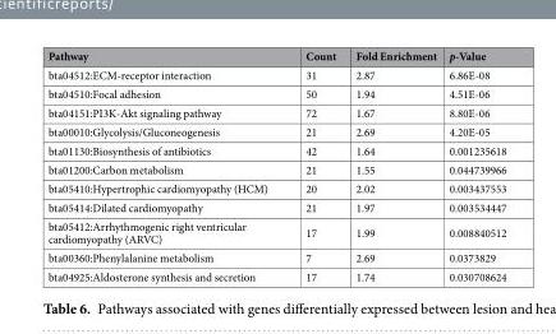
<table><thead><tr><td>Pathway</td><td>Count</td><td>Fold Enrichment</td><td>p-Value</td></tr></thead><tbody><tr><td>bta04512:ECM-receptor interaction</td><td>31</td><td>2.87</td><td>6.86E-08</td></tr><tr><td>bta04510:Focal adhesion</td><td>50</td><td>1.94</td><td>4.51E-06</td></tr><tr><td>bta04151:PI3K-Akt signaling pathway</td><td>72</td><td>1.67</td><td>8.80E-06</td></tr><tr><td>bta00010:Glycolysis/Gluconeogenesis</td><td>21</td><td>2.69</td><td>4.20E-05</td></tr><tr><td>bta01130:Biosynthesis of antibiotics</td><td>42</td><td>1.64</td><td>0.001235618</td></tr><tr><td>bta01200:Carbon metabolism</td><td>21</td><td>1.55</td><td>0.044739966</td></tr><tr><td>bta05410:Hypertrophic cardiomyopathy (HCM)</td><td>20</td><td>2.02</td><td>0.003437553</td></tr><tr><td>bta05414:Dilated cardiomyopathy</td><td>21</td><td>1.97</td><td>0.003534447</td></tr><tr><td>bta05412:Arrhythmogenic right ventricular cardiomyopathy (ARVC)</td><td>17</td><td>1.99</td><td>0.008840512</td></tr><tr><td>bta00360:Phenylalanine metabolism</td><td>7</td><td>2.69</td><td>0.0373829</td></tr><tr><td>bta04925:Aldosterone synthesis and secretion</td><td>17</td><td>1.74</td><td>0.030708624</td></tr></tbody></table>